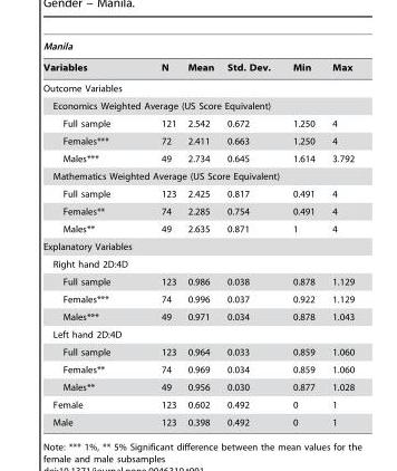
<table><thead><tr><td colspan="6">Manila</td></tr><tr><td>Variables</td><td>N</td><td>Mean</td><td>Std. Dev.</td><td>Min</td><td>Max</td></tr></thead><tbody><tr><td colspan="6">Outcome Variables</td></tr><tr><td colspan="6">Economics Weighted Average (US Score Equivalent)</td></tr><tr><td>Full sample</td><td>121</td><td>2.542</td><td>0.672</td><td>1.250</td><td>4</td></tr><tr><td>Females***</td><td>72</td><td>2.411</td><td>0.663</td><td>1.250</td><td>4</td></tr><tr><td>Males***</td><td>49</td><td>2.734</td><td>0.645</td><td>1.614</td><td>3.792</td></tr><tr><td colspan="6">Mathematics Weighted Average (US Score Equivalent)</td></tr><tr><td>Full sample</td><td>123</td><td>2.425</td><td>0.817</td><td>0.491</td><td>4</td></tr><tr><td>Females**</td><td>74</td><td>2.285</td><td>0.754</td><td>0.491</td><td>4</td></tr><tr><td>Males**</td><td>49</td><td>2.635</td><td>0.871</td><td>1</td><td>4</td></tr><tr><td colspan="6">Explanatory Variables</td></tr><tr><td colspan="6">Right hand 2D:4D</td></tr><tr><td>Full sample</td><td>123</td><td>0.986</td><td>0.038</td><td>0.878</td><td>1.129</td></tr><tr><td>Females***</td><td>74</td><td>0.996</td><td>0.037</td><td>0.922</td><td>1.129</td></tr><tr><td>Males***</td><td>49</td><td>0.971</td><td>0.034</td><td>0.878</td><td>1.043</td></tr><tr><td colspan="6">Left hand 2D:4D</td></tr><tr><td>Full sample</td><td>123</td><td>0.964</td><td>0.033</td><td>0.859</td><td>1.060</td></tr><tr><td>Females**</td><td>74</td><td>0.969</td><td>0.034</td><td>0.859</td><td>1.060</td></tr><tr><td>Males**</td><td>49</td><td>0.956</td><td>0.030</td><td>0.877</td><td>1.028</td></tr><tr><td>Female</td><td>123</td><td>0.602</td><td>0.492</td><td>0</td><td>1</td></tr><tr><td>Male</td><td>123</td><td>0.398</td><td>0.492</td><td>0</td><td>1</td></tr></tbody></table>